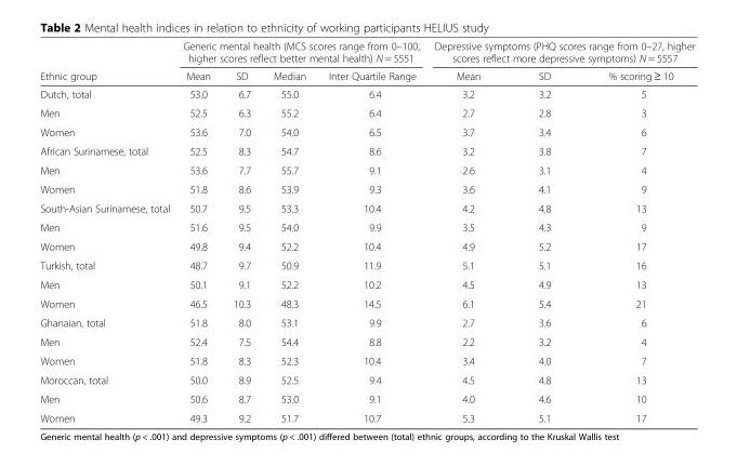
<table><thead><tr><td rowspan="2">Ethnic group</td><td colspan="4">Generic mental health (MCS scores range from 0–100, higher scores reflect better mental health) N = 5551</td><td colspan="3">Depressive symptoms (PHQ scores range from 0–27, higher scores reflect more depressive symptoms) N = 5557</td></tr><tr><td>Mean</td><td>SD</td><td>Median</td><td>Inter Quartile Range</td><td>Mean</td><td>SD</td><td>% scoring ≥ 10</td></tr></thead><tbody><tr><td>Dutch, total</td><td>53.0</td><td>6.7</td><td>55.0</td><td>6.4</td><td>3.2</td><td>3.2</td><td>5</td></tr><tr><td>Men</td><td>52.5</td><td>6.3</td><td>55.2</td><td>6.4</td><td>2.7</td><td>2.8</td><td>3</td></tr><tr><td>Women</td><td>53.6</td><td>7.0</td><td>54.0</td><td>6.5</td><td>3.7</td><td>3.4</td><td>6</td></tr><tr><td>African Surinamese, total</td><td>52.5</td><td>8.3</td><td>54.7</td><td>8.6</td><td>3.2</td><td>3.8</td><td>7</td></tr><tr><td>Men</td><td>53.6</td><td>7.7</td><td>55.7</td><td>9.1</td><td>2.6</td><td>3.1</td><td>4</td></tr><tr><td>Women</td><td>51.8</td><td>8.6</td><td>53.9</td><td>9.3</td><td>3.6</td><td>4.1</td><td>9</td></tr><tr><td>South-Asian Surinamese, total</td><td>50.7</td><td>9.5</td><td>53.3</td><td>10.4</td><td>4.2</td><td>4.8</td><td>13</td></tr><tr><td>Men</td><td>51.6</td><td>9.5</td><td>54.0</td><td>9.9</td><td>3.5</td><td>4.3</td><td>9</td></tr><tr><td>Women</td><td>49.8</td><td>9.4</td><td>52.2</td><td>10.4</td><td>4.9</td><td>5.2</td><td>17</td></tr><tr><td>Turkish, total</td><td>48.7</td><td>9.7</td><td>50.9</td><td>11.9</td><td>5.1</td><td>5.1</td><td>16</td></tr><tr><td>Men</td><td>50.1</td><td>9.1</td><td>52.2</td><td>10.2</td><td>4.5</td><td>4.9</td><td>13</td></tr><tr><td>Women</td><td>46.5</td><td>10.3</td><td>48.3</td><td>14.5</td><td>6.1</td><td>5.4</td><td>21</td></tr><tr><td>Ghanaian, total</td><td>51.8</td><td>8.0</td><td>53.1</td><td>9.9</td><td>2.7</td><td>3.6</td><td>6</td></tr><tr><td>Men</td><td>52.4</td><td>7.5</td><td>54.4</td><td>8.8</td><td>2.2</td><td>3.2</td><td>4</td></tr><tr><td>Women</td><td>51.8</td><td>8.3</td><td>52.3</td><td>10.4</td><td>3.4</td><td>4.0</td><td>7</td></tr><tr><td>Moroccan, total</td><td>50.0</td><td>8.9</td><td>52.5</td><td>9.4</td><td>4.5</td><td>4.8</td><td>13</td></tr><tr><td>Men</td><td>50.6</td><td>8.7</td><td>53.0</td><td>9.1</td><td>4.0</td><td>4.6</td><td>10</td></tr><tr><td>Women</td><td>49.3</td><td>9.2</td><td>51.7</td><td>10.7</td><td>5.3</td><td>5.1</td><td>17</td></tr></tbody></table>